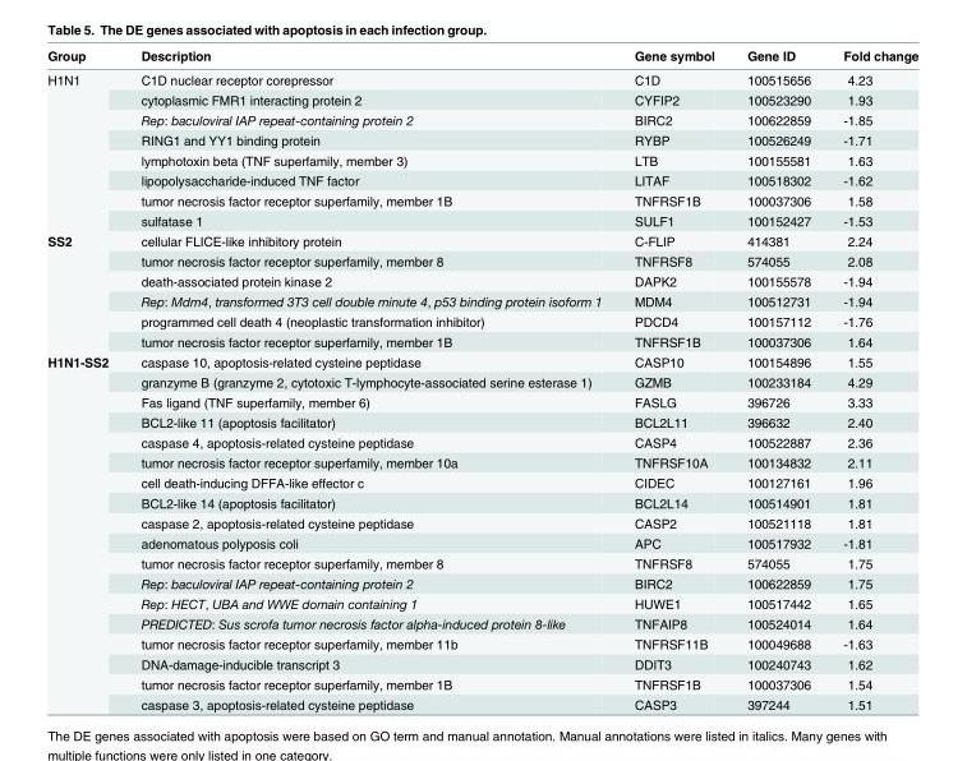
<table><thead><tr><td>Group</td><td>Description</td><td>Gene symbol</td><td>Gene ID</td><td>Fold change</td></tr></thead><tbody><tr><td rowspan="8">H1N1</td><td>C1D nuclear receptor corepressor</td><td>C1D</td><td>100515656</td><td>4.23</td></tr><tr><td>cytoplasmic FMR1 interacting protein 2</td><td>CYFIP2</td><td>100523290</td><td>1.93</td></tr><tr><td>Rep: baculoviral IAP repeat-containing protein 2</td><td>BIRC2</td><td>100622859</td><td>-1.85</td></tr><tr><td>RING1 and YY1 binding protein</td><td>RYBP</td><td>100526249</td><td>-1.71</td></tr><tr><td>lymphotoxin beta (TNF superfamily, member 3)</td><td>LTB</td><td>100155581</td><td>1.63</td></tr><tr><td>lipopolysaccharide-induced TNF factor</td><td>LITAF</td><td>100518302</td><td>-1.62</td></tr><tr><td>tumor necrosis factor receptor superfamily, member 1B</td><td>TNFRSF1B</td><td>100037306</td><td>1.58</td></tr><tr><td>sulfatase 1</td><td>SULF1</td><td>100152427</td><td>-1.53</td></tr><tr><td rowspan="6">SS2</td><td>cellular FLICE-like inhibitory protein</td><td>C-FLIP</td><td>414381</td><td>2.24</td></tr><tr><td>tumor necrosis factor receptor superfamily, member 8</td><td>TNFRSF8</td><td>574055</td><td>2.08</td></tr><tr><td>death-associated protein kinase 2</td><td>DAPK2</td><td>100155578</td><td>-1.94</td></tr><tr><td>Rep: Mdm4, transformed 3T3 cell double minute 4, p53 binding protein isoform 1</td><td>MDM4</td><td>100512731</td><td>-1.94</td></tr><tr><td>programmed cell death 4 (neoplastic transformation inhibitor)</td><td>PDCD4</td><td>100157112</td><td>-1.76</td></tr><tr><td>tumor necrosis factor receptor superfamily, member 1B</td><td>TNFRSF1B</td><td>100037306</td><td>1.64</td></tr><tr><td rowspan="18">H1N1-SS2</td><td>caspase 10, apoptosis-related cysteine peptidase</td><td>CASP10</td><td>100154896</td><td>1.55</td></tr><tr><td>granzyme B (granzyme 2, cytotoxic T-lymphocyte-associated serine esterase 1)</td><td>GZMB</td><td>100233184</td><td>4.29</td></tr><tr><td>Fas ligand (TNF superfamily, member 6)</td><td>FASLG</td><td>396726</td><td>3.33</td></tr><tr><td>BCL2-like 11 (apoptosis facilitator)</td><td>BCL2L11</td><td>396632</td><td>2.40</td></tr><tr><td>caspase 4, apoptosis-related cysteine peptidase</td><td>CASP4</td><td>100522887</td><td>2.36</td></tr><tr><td>tumor necrosis factor receptor superfamily, member 10a</td><td>TNFRSF10A</td><td>100134832</td><td>2.11</td></tr><tr><td>cell death-inducing DFFA-like effector c</td><td>CIDEC</td><td>100127161</td><td>1.96</td></tr><tr><td>BCL2-like 14 (apoptosis facilitator)</td><td>BCL2L14</td><td>100514901</td><td>1.81</td></tr><tr><td>caspase 2, apoptosis-related cysteine peptidase</td><td>CASP2</td><td>100521118</td><td>1.81</td></tr><tr><td>adenomatous polyposis coli</td><td>APC</td><td>100517932</td><td>-1.81</td></tr><tr><td>tumor necrosis factor receptor superfamily, member 8</td><td>TNFRSF8</td><td>574055</td><td>1.75</td></tr><tr><td>Rep: baculoviral IAP repeat-containing protein 2</td><td>BIRC2</td><td>100622859</td><td>1.75</td></tr><tr><td>Rep: HECT, UBA and WWE domain containing 1</td><td>HUWE1</td><td>100517442</td><td>1.65</td></tr><tr><td>PREDICTED: Sus scrofa tumor necrosis factor alpha-induced protein 8-like</td><td>TNFAIP8</td><td>100524014</td><td>1.64</td></tr><tr><td>tumor necrosis factor receptor superfamily, member 11b</td><td>TNFRSF11B</td><td>100049688</td><td>-1.63</td></tr><tr><td>DNA-damage-inducible transcript 3</td><td>DDIT3</td><td>100240743</td><td>1.62</td></tr><tr><td>tumor necrosis factor receptor superfamily, member 1B</td><td>TNFRSF1B</td><td>100037306</td><td>1.54</td></tr><tr><td>caspase 3, apoptosis-related cysteine peptidase</td><td>CASP3</td><td>397244</td><td>1.51</td></tr></tbody></table>